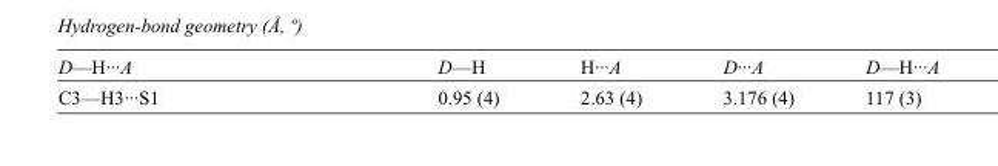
<table><tbody><tr><td>D—H···A</td><td>D—H</td><td>H···A</td><td>D···A</td><td>D—H···A</td></tr><tr><td>C3—H3···S1</td><td>0.95 (4)</td><td>2.63 (4)</td><td>3.176 (4)</td><td>117 (3)</td></tr></tbody></table>